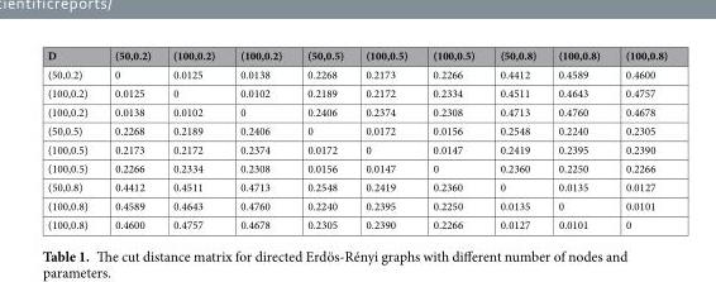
<table><thead><tr><td>D</td><td>(50,0.2)</td><td>(100,0.2)</td><td>(100,0.2)</td><td>(50,0.5)</td><td>(100,0.5)</td><td>(100,0.5)</td><td>(50,0.8)</td><td>(100,0.8)</td><td>(100,0.8)</td></tr></thead><tbody><tr><td>(50,0.2)</td><td>0</td><td>0.0125</td><td>0.0138</td><td>0.2268</td><td>0.2173</td><td>0.2266</td><td>0.4412</td><td>0.4589</td><td>0.4600</td></tr><tr><td>(100,0.2)</td><td>0.0125</td><td>0</td><td>0.0102</td><td>0.2189</td><td>0.2172</td><td>0.2334</td><td>0.4511</td><td>0.4643</td><td>0.4757</td></tr><tr><td>(100,0.2)</td><td>0.0138</td><td>0.0102</td><td>0</td><td>0.2406</td><td>0.2374</td><td>0.2308</td><td>0.4713</td><td>0.4760</td><td>0.4678</td></tr><tr><td>(50,0.5)</td><td>0.2268</td><td>0.2189</td><td>0.2406</td><td>0</td><td>0.0172</td><td>0.0156</td><td>0.2548</td><td>0.2240</td><td>0.2305</td></tr><tr><td>(100,0.5)</td><td>0.2173</td><td>0.2172</td><td>0.2374</td><td>0.0172</td><td>0</td><td>0.0147</td><td>0.2419</td><td>0.2395</td><td>0.2390</td></tr><tr><td>(100,0.5)</td><td>0.2266</td><td>0.2334</td><td>0.2308</td><td>0.0156</td><td>0.0147</td><td>0</td><td>0.2360</td><td>0.2250</td><td>0.2266</td></tr><tr><td>(50,0.8)</td><td>0.4412</td><td>0.4511</td><td>0.4713</td><td>0.2548</td><td>0.2419</td><td>0.2360</td><td>0</td><td>0.0135</td><td>0.0127</td></tr><tr><td>(100,0.8)</td><td>0.4589</td><td>0.4643</td><td>0.4760</td><td>0.2240</td><td>0.2395</td><td>0.2250</td><td>0.0135</td><td>0</td><td>0.0101</td></tr><tr><td>(100,0.8)</td><td>0.4600</td><td>0.4757</td><td>0.4678</td><td>0.2305</td><td>0.2390</td><td>0.2266</td><td>0.0127</td><td>0.0101</td><td>0</td></tr></tbody></table>